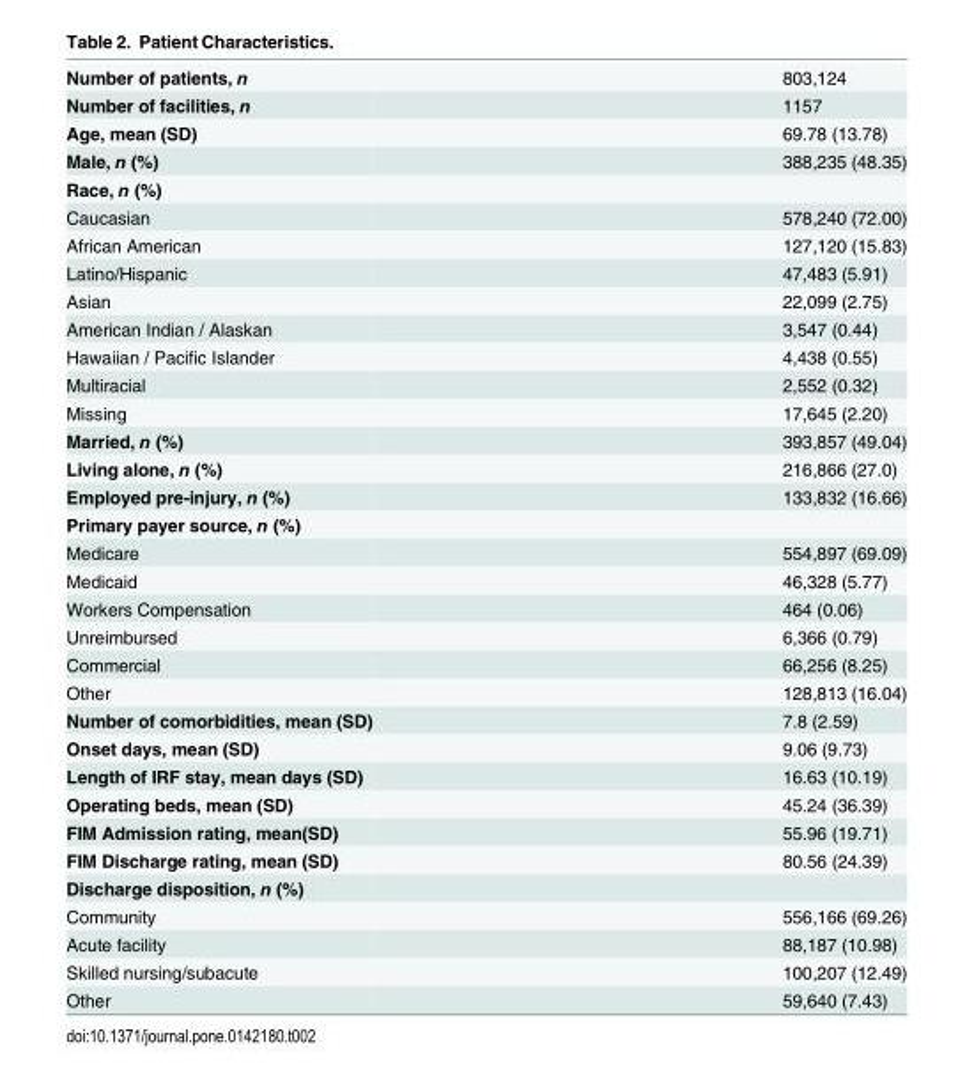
<table><tbody><tr><td>Number of patients, n</td><td>803,124</td></tr><tr><td>Number of facilities, n</td><td>1157</td></tr><tr><td>Age, mean (SD)</td><td>69.78 (13.78)</td></tr><tr><td>Male, n (%)</td><td>388,235 (48.35)</td></tr><tr><td colspan="2">Race, n (%)</td></tr><tr><td>Caucasian</td><td>578,240 (72.00)</td></tr><tr><td>African American</td><td>127,120 (15.83)</td></tr><tr><td>Latino/Hispanic</td><td>47,483 (5.91)</td></tr><tr><td>Asian</td><td>22,099 (2.75)</td></tr><tr><td>American Indian / Alaskan</td><td>3,547 (0.44)</td></tr><tr><td>Hawaiian / Pacific Islander</td><td>4,438 (0.55)</td></tr><tr><td>Multiracial</td><td>2,552 (0.32)</td></tr><tr><td>Missing</td><td>17,645 (2.20)</td></tr><tr><td>Married, n (%)</td><td>393,857 (49.04)</td></tr><tr><td>Living alone, n (%)</td><td>216,866 (27.0)</td></tr><tr><td>Employed pre-injury, n (%)</td><td>133,832 (16.66)</td></tr><tr><td colspan="2">Primary payer source, n (%)</td></tr><tr><td>Medicare</td><td>554,897 (69.09)</td></tr><tr><td>Medicaid</td><td>46,328 (5.77)</td></tr><tr><td>Workers Compensation</td><td>464 (0.06)</td></tr><tr><td>Unreimbursed</td><td>6,366 (0.79)</td></tr><tr><td>Commercial</td><td>66,256 (8.25)</td></tr><tr><td>Other</td><td>128,813 (16.04)</td></tr><tr><td>Number of comorbidities, mean (SD)</td><td>7.8 (2.59)</td></tr><tr><td>Onset days, mean (SD)</td><td>9.06 (9.73)</td></tr><tr><td>Length of IRF stay, mean days (SD)</td><td>16.63 (10.19)</td></tr><tr><td>Operating beds, mean (SD)</td><td>45.24 (36.39)</td></tr><tr><td>FIM Admission rating, mean(SD)</td><td>55.96 (19.71)</td></tr><tr><td>FIM Discharge rating, mean (SD)</td><td>80.56 (24.39)</td></tr><tr><td colspan="2">Discharge disposition, n (%)</td></tr><tr><td>Community</td><td>556,166 (69.26)</td></tr><tr><td>Acute facility</td><td>88,187 (10.98)</td></tr><tr><td>Skilled nursing/subacute</td><td>100,207 (12.49)</td></tr><tr><td>Other</td><td>59,640 (7.43)</td></tr></tbody></table>